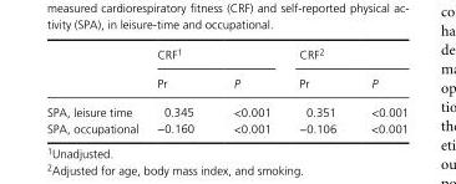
<table><thead><tr><td rowspan="2"></td><td colspan="2">CRF1</td><td colspan="2">CRF2</td></tr><tr><td>Pr</td><td>P</td><td>Pr</td><td>P</td></tr></thead><tbody><tr><td>SPA, leisure time</td><td>0.345</td><td>&lt;0.001</td><td>0.351</td><td>&lt;0.001</td></tr><tr><td>SPA, occupational</td><td>−0.160</td><td>&lt;0.001</td><td>−0.106</td><td>&lt;0.001</td></tr></tbody></table>